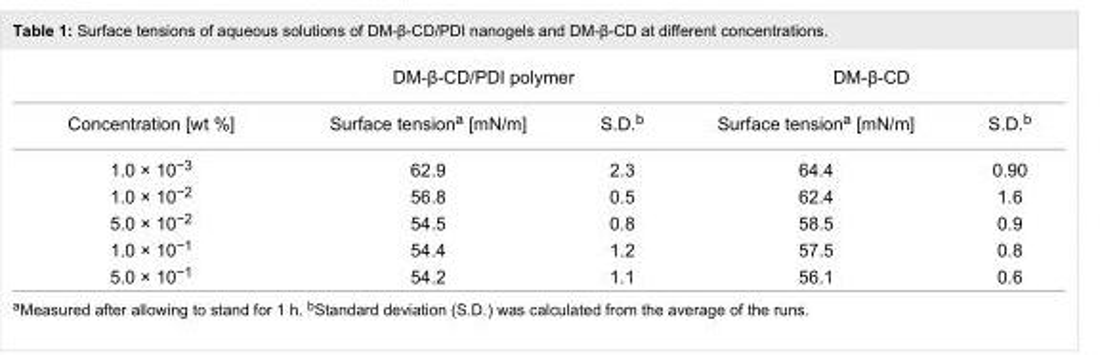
<table><thead><tr><td rowspan="2">Concentration [wt %]</td><td colspan="2">DM-β-CD/PDI polymer</td><td colspan="2">DM-β-CD</td></tr><tr><td>Surface tension<sup>a</sup> [mN/m]</td><td>S.D.<sup>b</sup></td><td>Surface tension<sup>a</sup> [mN/m]</td><td>S.D.<sup>b</sup></td></tr></thead><tbody><tr><td>1.0 × 10<sup>−3</sup></td><td>62.9</td><td>2.3</td><td>64.4</td><td>0.90</td></tr><tr><td>1.0 × 10<sup>−2</sup></td><td>56.8</td><td>0.5</td><td>62.4</td><td>1.6</td></tr><tr><td>5.0 × 10<sup>−2</sup></td><td>54.5</td><td>0.8</td><td>58.5</td><td>0.9</td></tr><tr><td>1.0 × 10<sup>−1</sup></td><td>54.4</td><td>1.2</td><td>57.5</td><td>0.8</td></tr><tr><td>5.0 × 10<sup>−1</sup></td><td>54.2</td><td>1.1</td><td>56.1</td><td>0.6</td></tr></tbody></table>